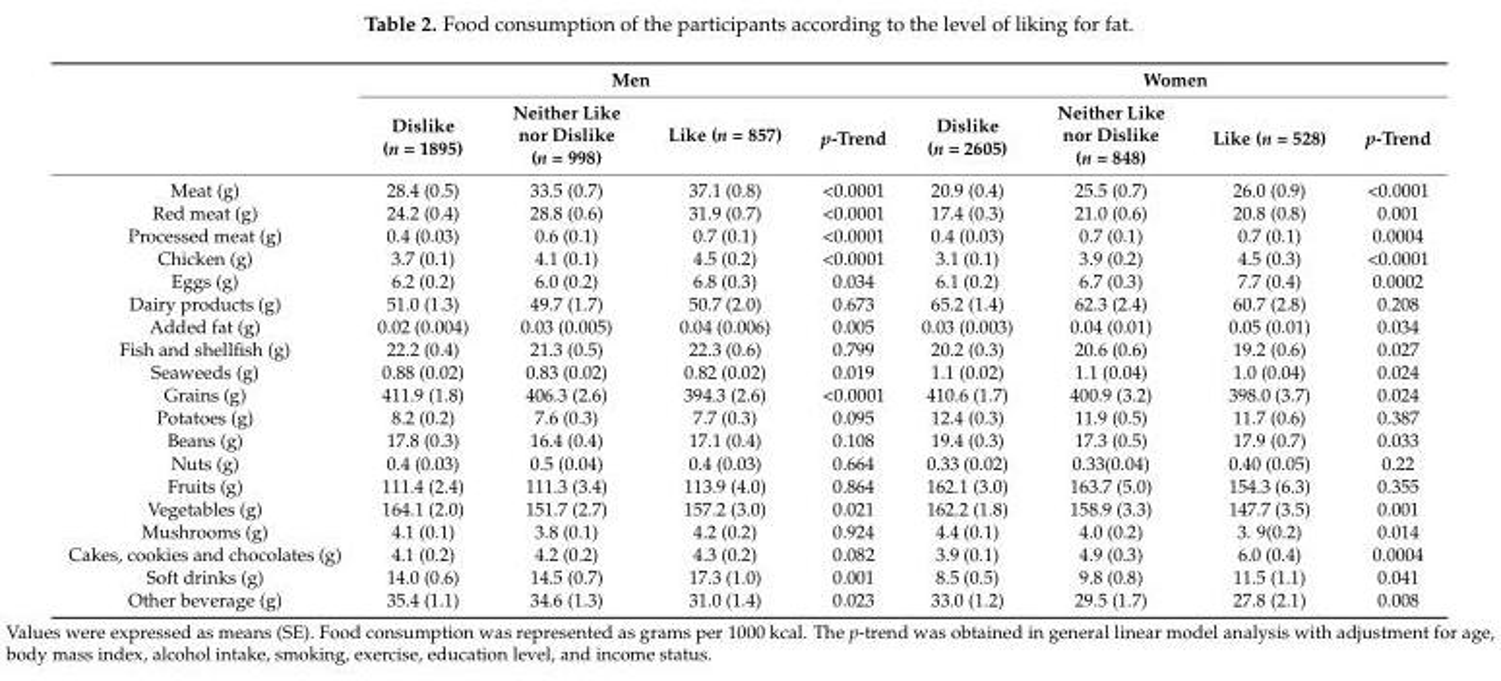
<table><thead><tr><td rowspan="2"></td><td colspan="4">Men</td><td colspan="4">Women</td></tr><tr><td>Dislike (n = 1895)</td><td>Neither Like nor Dislike (n = 998)</td><td>Like (n = 857)</td><td>p-Trend</td><td>Dislike (n = 2605)</td><td>Neither Like nor Dislike (n = 848)</td><td>Like (n = 528)</td><td>p-Trend</td></tr></thead><tbody><tr><td>Meat (g)</td><td>28.4 (0.5)</td><td>33.5 (0.7)</td><td>37.1 (0.8)</td><td>&lt;0.0001</td><td>20.9 (0.4)</td><td>25.5 (0.7)</td><td>26.0 (0.9)</td><td>&lt;0.0001</td></tr><tr><td>Red meat (g)</td><td>24.2 (0.4)</td><td>28.8 (0.6)</td><td>31.9 (0.7)</td><td>&lt;0.0001</td><td>17.4 (0.3)</td><td>21.0 (0.6)</td><td>20.8 (0.8)</td><td>0.001</td></tr><tr><td>Processed meat (g)</td><td>0.4 (0.03)</td><td>0.6 (0.1)</td><td>0.7 (0.1)</td><td>&lt;0.0001</td><td>0.4 (0.03)</td><td>0.7 (0.1)</td><td>0.7 (0.1)</td><td>0.0004</td></tr><tr><td>Chicken (g)</td><td>3.7 (0.1)</td><td>4.1 (0.1)</td><td>4.5 (0.2)</td><td>&lt;0.0001</td><td>3.1 (0.1)</td><td>3.9 (0.2)</td><td>4.5 (0.3)</td><td>&lt;0.0001</td></tr><tr><td>Eggs (g)</td><td>6.2 (0.2)</td><td>6.0 (0.2)</td><td>6.8 (0.3)</td><td>0.034</td><td>6.1 (0.2)</td><td>6.7 (0.3)</td><td>7.7 (0.4)</td><td>0.0002</td></tr><tr><td>Dairy products (g)</td><td>51.0 (1.3)</td><td>49.7 (1.7)</td><td>50.7 (2.0)</td><td>0.673</td><td>65.2 (1.4)</td><td>62.3 (2.4)</td><td>60.7 (2.8)</td><td>0.208</td></tr><tr><td>Added fat (g)</td><td>0.02 (0.004)</td><td>0.03 (0.005)</td><td>0.04 (0.006)</td><td>0.005</td><td>0.03 (0.003)</td><td>0.04 (0.01)</td><td>0.05 (0.01)</td><td>0.034</td></tr><tr><td>Fish and shellfish (g)</td><td>22.2 (0.4)</td><td>21.3 (0.5)</td><td>22.3 (0.6)</td><td>0.799</td><td>20.2 (0.3)</td><td>20.6 (0.6)</td><td>19.2 (0.6)</td><td>0.027</td></tr><tr><td>Seaweeds (g)</td><td>0.88 (0.02)</td><td>0.83 (0.02)</td><td>0.82 (0.02)</td><td>0.019</td><td>1.1 (0.02)</td><td>1.1 (0.04)</td><td>1.0 (0.04)</td><td>0.024</td></tr><tr><td>Grains (g)</td><td>411.9 (1.8)</td><td>406.3 (2.6)</td><td>394.3 (2.6)</td><td>&lt;0.0001</td><td>410.6 (1.7)</td><td>400.9 (3.2)</td><td>398.0 (3.7)</td><td>0.024</td></tr><tr><td>Potatoes (g)</td><td>8.2 (0.2)</td><td>7.6 (0.3)</td><td>7.7 (0.3)</td><td>0.095</td><td>12.4 (0.3)</td><td>11.9 (0.5)</td><td>11.7 (0.6)</td><td>0.387</td></tr><tr><td>Beans (g)</td><td>17.8 (0.3)</td><td>16.4 (0.4)</td><td>17.1 (0.4)</td><td>0.108</td><td>19.4 (0.3)</td><td>17.3 (0.5)</td><td>17.9 (0.7)</td><td>0.033</td></tr><tr><td>Nuts (g)</td><td>0.4 (0.03)</td><td>0.5 (0.04)</td><td>0.4 (0.03)</td><td>0.664</td><td>0.33 (0.02)</td><td>0.33(0.04)</td><td>0.40 (0.05)</td><td>0.22</td></tr><tr><td>Fruits (g)</td><td>111.4 (2.4)</td><td>111.3 (3.4)</td><td>113.9 (4.0)</td><td>0.864</td><td>162.1 (3.0)</td><td>163.7 (5.0)</td><td>154.3 (6.3)</td><td>0.355</td></tr><tr><td>Vegetables (g)</td><td>164.1 (2.0)</td><td>151.7 (2.7)</td><td>157.2 (3.0)</td><td>0.021</td><td>162.2 (1.8)</td><td>158.9 (3.3)</td><td>147.7 (3.5)</td><td>0.001</td></tr><tr><td>Mushrooms (g)</td><td>4.1 (0.1)</td><td>3.8 (0.1)</td><td>4.2 (0.2)</td><td>0.924</td><td>4.4 (0.1)</td><td>4.0 (0.2)</td><td>3. 9(0.2)</td><td>0.014</td></tr><tr><td>Cakes, cookies and chocolates (g)</td><td>4.1 (0.2)</td><td>4.2 (0.2)</td><td>4.3 (0.2)</td><td>0.082</td><td>3.9 (0.1)</td><td>4.9 (0.3)</td><td>6.0 (0.4)</td><td>0.0004</td></tr><tr><td>Soft drinks (g)</td><td>14.0 (0.6)</td><td>14.5 (0.7)</td><td>17.3 (1.0)</td><td>0.001</td><td>8.5 (0.5)</td><td>9.8 (0.8)</td><td>11.5 (1.1)</td><td>0.041</td></tr><tr><td>Other beverage (g)</td><td>35.4 (1.1)</td><td>34.6 (1.3)</td><td>31.0 (1.4)</td><td>0.023</td><td>33.0 (1.2)</td><td>29.5 (1.7)</td><td>27.8 (2.1)</td><td>0.008</td></tr></tbody></table>